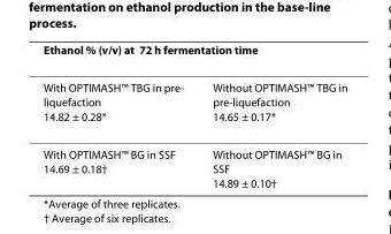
<table><thead><tr><td colspan="2">Ethanol % (v/v) at 72 h fermentation time</td></tr><tr><td>With OPTIMASH™ TBG in pre- liquefaction 14.82 ± 0.28*</td><td>Without OPTIMASH™ TBG in pre-liquefaction 14.65 ± 0.17*</td></tr></thead><tbody><tr><td>With OPTIMASH™ BG in SSF 14.69 ± 0.18†</td><td>Without OPTIMASH™ BG in SSF 14.89 ± 0.10†</td></tr></tbody></table>